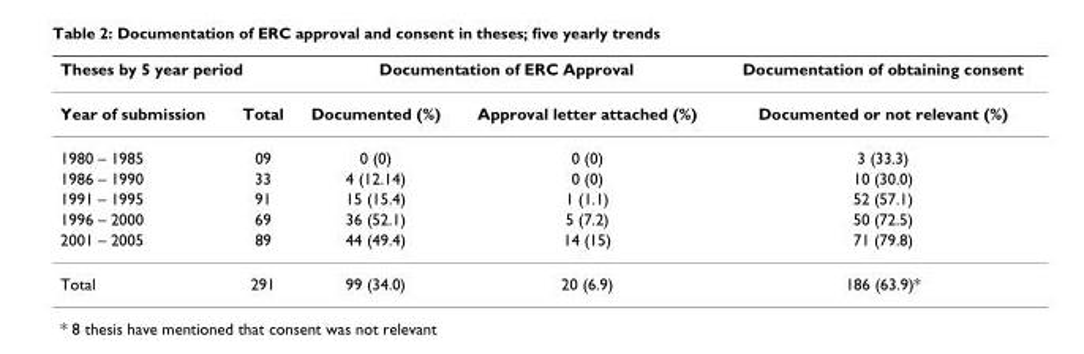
<table><thead><tr><td colspan="2">Theses by 5 year period</td><td colspan="2">Documentation of ERC Approval</td><td rowspan="2">Documentation of obtaining consent Documented or not relevant (%)</td></tr><tr><td>Year of submission</td><td>Total</td><td>Documented (%)</td><td>Approval letter attached (%)</td></tr></thead><tbody><tr><td>1980 – 1985</td><td>09</td><td>0 (0)</td><td>0 (0)</td><td>3 (33.3)</td></tr><tr><td>1986 – 1990</td><td>33</td><td>4 (12.14)</td><td>0 (0)</td><td>10 (30.0)</td></tr><tr><td>1991 – 1995</td><td>91</td><td>15 (15.4)</td><td>1 (1.1)</td><td>52 (57.1)</td></tr><tr><td>1996 – 2000</td><td>69</td><td>36 (52.1)</td><td>5 (7.2)</td><td>50 (72.5)</td></tr><tr><td>2001 – 2005</td><td>89</td><td>44 (49.4)</td><td>14 (15)</td><td>71 (79.8)</td></tr><tr><td>Total</td><td>291</td><td>99 (34.0)</td><td>20 (6.9)</td><td>186 (63.9)*</td></tr></tbody></table>